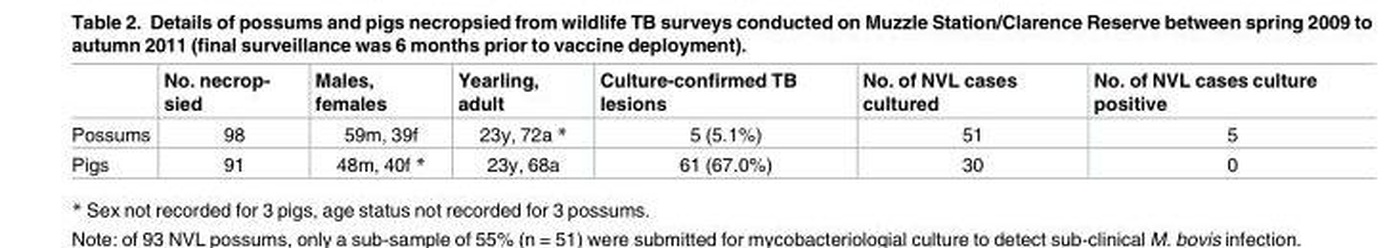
<table><thead><tr><td></td><td>No. necrop- sied</td><td>Males, females</td><td>Yearling, adult</td><td>Culture-confirmed TB lesions</td><td>No. of NVL cases cultured</td><td>No. of NVL cases culture positive</td></tr></thead><tbody><tr><td>Possums</td><td>98</td><td>59m, 39f</td><td>23y, 72a *</td><td>5 (5.1%)</td><td>51</td><td>5</td></tr><tr><td>Pigs</td><td>91</td><td>48m, 40f *</td><td>23y, 68a</td><td>61 (67.0%)</td><td>30</td><td>0</td></tr></tbody></table>